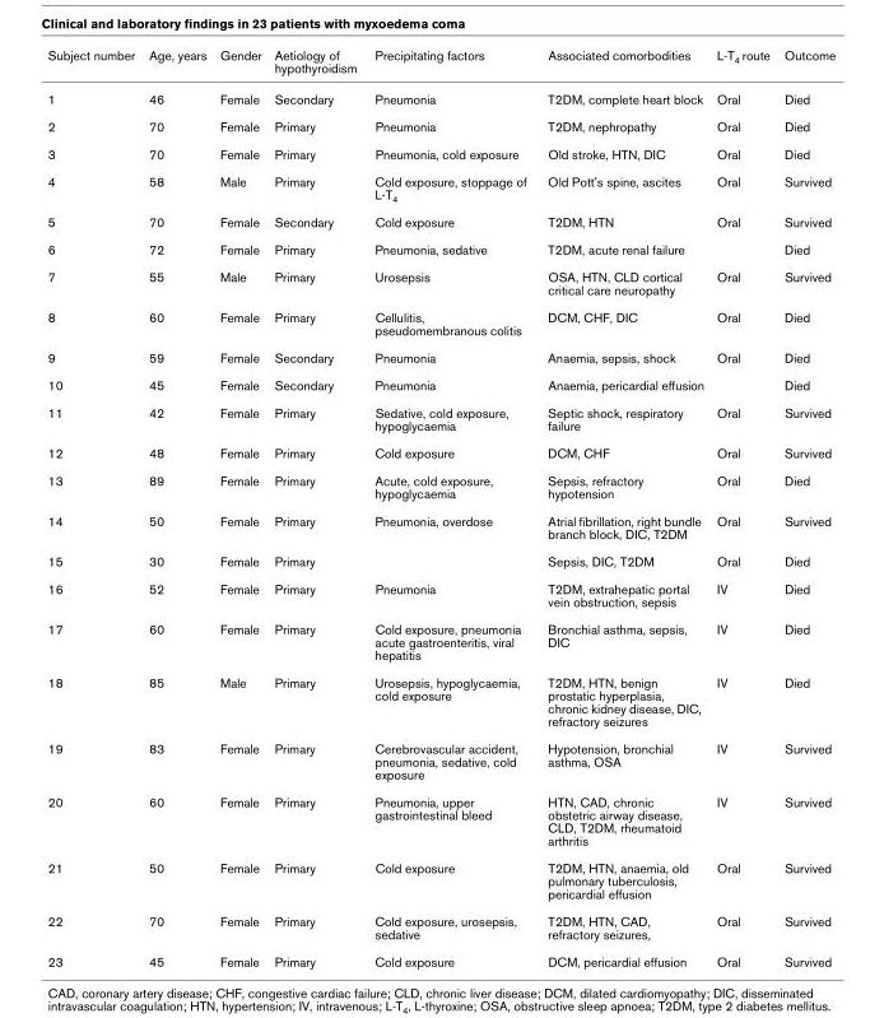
<table><thead><tr><td>Subject number</td><td>Age, years</td><td>Gender</td><td>Aetiology of hypothyroidism</td><td>Precipitating factors</td><td>Associated comorbodities</td><td>L-T<sub>4</sub> route</td><td>Outcome</td></tr></thead><tbody><tr><td>1</td><td>46</td><td>Female</td><td>Secondary</td><td>Pneumonia</td><td>T2DM, complete heart block</td><td>Oral</td><td>Died</td></tr><tr><td>2</td><td>70</td><td>Female</td><td>Primary</td><td>Pneumonia</td><td>T2DM, nephropathy</td><td>Oral</td><td>Died</td></tr><tr><td>3</td><td>70</td><td>Female</td><td>Primary</td><td>Pneumonia, cold exposure</td><td>Old stroke, HTN, DIC</td><td>Oral</td><td>Died</td></tr><tr><td>4</td><td>58</td><td>Male</td><td>Primary</td><td>Cold exposure, stoppage of L-T<sub>4</sub></td><td>Old Pott&#x27;s spine, ascites</td><td>Oral</td><td>Survived</td></tr><tr><td>5</td><td>70</td><td>Female</td><td>Secondary</td><td>Cold exposure</td><td>T2DM, HTN</td><td>Oral</td><td>Survived</td></tr><tr><td>6</td><td>72</td><td>Female</td><td>Primary</td><td>Pneumonia, sedative</td><td>T2DM, acute renal failure</td><td></td><td>Died</td></tr><tr><td>7</td><td>55</td><td>Male</td><td>Primary</td><td>Urosepsis</td><td>OSA, HTN, CLD cortical critical care neuropathy</td><td>Oral</td><td>Survived</td></tr><tr><td>8</td><td>60</td><td>Female</td><td>Primary</td><td>Cellulitis, pseudomembranous colitis</td><td>DCM, CHF, DIC</td><td>Oral</td><td>Died</td></tr><tr><td>9</td><td>59</td><td>Female</td><td>Secondary</td><td>Pneumonia</td><td>Anaemia, sepsis, shock</td><td>Oral</td><td>Died</td></tr><tr><td>10</td><td>45</td><td>Female</td><td>Secondary</td><td>Pneumonia</td><td>Anaemia, pericardial effusion</td><td></td><td>Died</td></tr><tr><td>11</td><td>42</td><td>Female</td><td>Primary</td><td>Sedative, cold exposure, hypoglycaemia</td><td>Septic shock, respiratory failure</td><td>Oral</td><td>Survived</td></tr><tr><td>12</td><td>48</td><td>Female</td><td>Primary</td><td>Cold exposure</td><td>DCM, CHF</td><td>Oral</td><td>Survived</td></tr><tr><td>13</td><td>89</td><td>Female</td><td>Primary</td><td>Acute, cold exposure, hypoglycaemia</td><td>Sepsis, refractory hypotension</td><td>Oral</td><td>Died</td></tr><tr><td>14</td><td>50</td><td>Female</td><td>Primary</td><td>Pneumonia, overdose</td><td>Atrial fibrillation, right bundle branch block, DIC, T2DM</td><td>Oral</td><td>Survived</td></tr><tr><td>15</td><td>30</td><td>Female</td><td>Primary</td><td></td><td>Sepsis, DIC, T2DM</td><td>Oral</td><td>Died</td></tr><tr><td>16</td><td>52</td><td>Female</td><td>Primary</td><td>Pneumonia</td><td>T2DM, extrahepatic portal vein obstruction, sepsis</td><td>IV</td><td>Died</td></tr><tr><td>17</td><td>60</td><td>Female</td><td>Primary</td><td>Cold exposure, pneumonia acute gastroenteritis, viral hepatitis</td><td>Bronchial asthma, sepsis, DIC</td><td>IV</td><td>Died</td></tr><tr><td>18</td><td>85</td><td>Male</td><td>Primary</td><td>Urosepsis, hypoglycaemia, cold exposure</td><td>T2DM, HTN, benign prostatic hyperplasia, chronic kidney disease, DIC, refractory seizures</td><td>IV</td><td>Died</td></tr><tr><td>19</td><td>83</td><td>Female</td><td>Primary</td><td>Cerebrovascular accident, pneumonia, sedative, cold exposure</td><td>Hypotension, bronchial asthma, OSA</td><td>IV</td><td>Survived</td></tr><tr><td>20</td><td>60</td><td>Female</td><td>Primary</td><td>Pneumonia, upper gastrointestinal bleed</td><td>HTN, CAD, chronic obstetric airway disease, CLD, T2DM, rheumatoid arthritis</td><td>IV</td><td>Survived</td></tr><tr><td>21</td><td>50</td><td>Female</td><td>Primary</td><td>Cold exposure</td><td>T2DM, HTN, anaemia, old pulmonary tuberculosis, pericardial effusion</td><td>Oral</td><td>Survived</td></tr><tr><td>22</td><td>70</td><td>Female</td><td>Primary</td><td>Cold exposure, urosepsis, sedative</td><td>T2DM, HTN, CAD, refractory seizures,</td><td>Oral</td><td>Survived</td></tr><tr><td>23</td><td>45</td><td>Female</td><td>Primary</td><td>Cold exposure</td><td>DCM, pericardial effusion</td><td>Oral</td><td>Survived</td></tr></tbody></table>